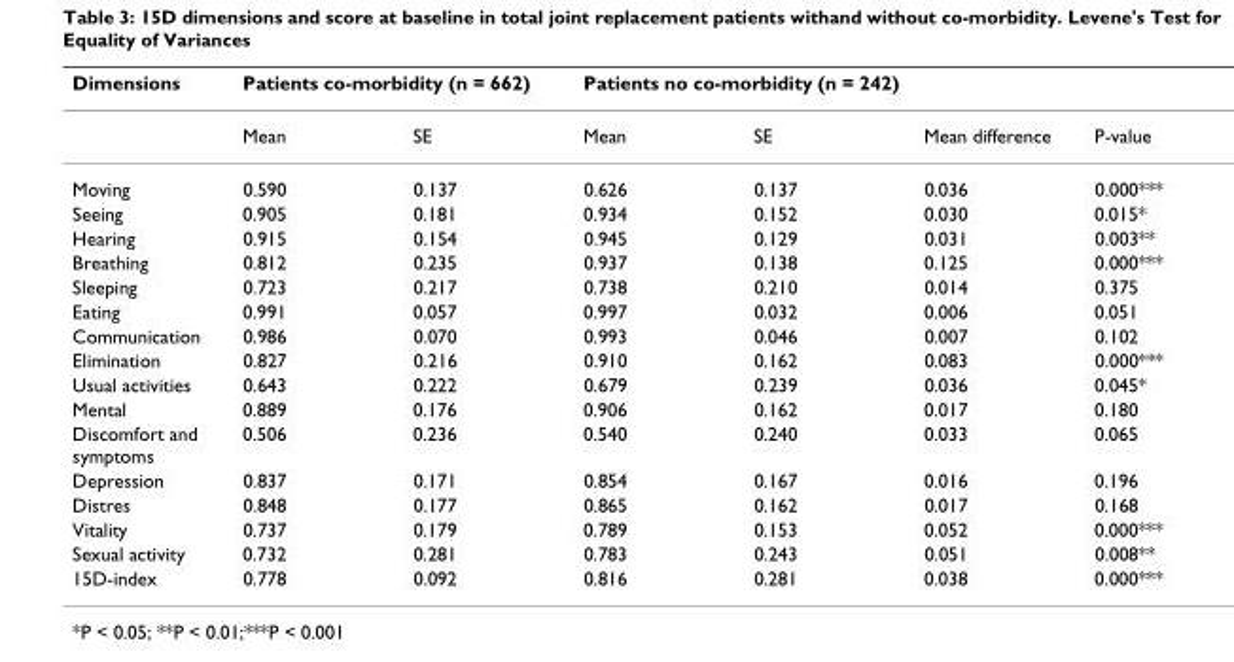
<table><thead><tr><td rowspan="2">Dimensions</td><td colspan="2">Patients co-morbidity (n = 662)</td><td colspan="2">Patients no co-morbidity (n = 242)</td><td rowspan="2">Mean difference</td><td rowspan="2">P-value</td></tr><tr><td>Mean</td><td>SE</td><td>Mean</td><td>SE</td></tr></thead><tbody><tr><td>Moving</td><td>0.590</td><td>0.137</td><td>0.626</td><td>0.137</td><td>0.036</td><td>0.000***</td></tr><tr><td>Seeing</td><td>0.905</td><td>0.181</td><td>0.934</td><td>0.152</td><td>0.030</td><td>0.015*</td></tr><tr><td>Hearing</td><td>0.915</td><td>0.154</td><td>0.945</td><td>0.129</td><td>0.031</td><td>0.003**</td></tr><tr><td>Breathing</td><td>0.812</td><td>0.235</td><td>0.937</td><td>0.138</td><td>0.125</td><td>0.000***</td></tr><tr><td>Sleeping</td><td>0.723</td><td>0.217</td><td>0.738</td><td>0.210</td><td>0.014</td><td>0.375</td></tr><tr><td>Eating</td><td>0.991</td><td>0.057</td><td>0.997</td><td>0.032</td><td>0.006</td><td>0.051</td></tr><tr><td>Communication</td><td>0.986</td><td>0.070</td><td>0.993</td><td>0.046</td><td>0.007</td><td>0.102</td></tr><tr><td>Elimination</td><td>0.827</td><td>0.216</td><td>0.910</td><td>0.162</td><td>0.083</td><td>0.000***</td></tr><tr><td>Usual activities</td><td>0.643</td><td>0.222</td><td>0.679</td><td>0.239</td><td>0.036</td><td>0.045*</td></tr><tr><td>Mental</td><td>0.889</td><td>0.176</td><td>0.906</td><td>0.162</td><td>0.017</td><td>0.180</td></tr><tr><td>Discomfort and symptoms</td><td>0.506</td><td>0.236</td><td>0.540</td><td>0.240</td><td>0.033</td><td>0.065</td></tr><tr><td>Depression</td><td>0.837</td><td>0.171</td><td>0.854</td><td>0.167</td><td>0.016</td><td>0.196</td></tr><tr><td>Distres</td><td>0.848</td><td>0.177</td><td>0.865</td><td>0.162</td><td>0.017</td><td>0.168</td></tr><tr><td>Vitality</td><td>0.737</td><td>0.179</td><td>0.789</td><td>0.153</td><td>0.052</td><td>0.000***</td></tr><tr><td>Sexual activity</td><td>0.732</td><td>0.281</td><td>0.783</td><td>0.243</td><td>0.051</td><td>0.008**</td></tr><tr><td>15D-index</td><td>0.778</td><td>0.092</td><td>0.816</td><td>0.281</td><td>0.038</td><td>0.000***</td></tr></tbody></table>